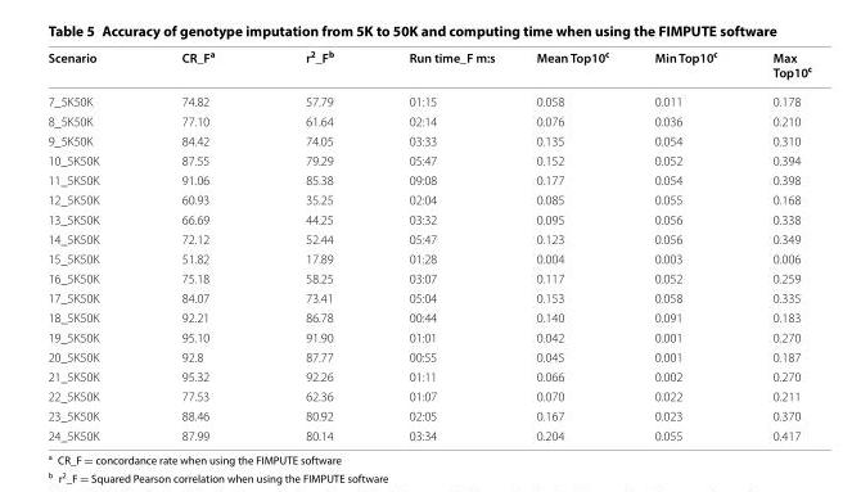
<table><thead><tr><td>Scenario</td><td>CR_F<sup>a</sup></td><td>r<sup>2</sup>_F<sup>b</sup></td><td>Run time_F m:s</td><td>Mean Top10<sup>c</sup></td><td>Min Top10<sup>c</sup></td><td>Max Top10<sup>c</sup></td></tr></thead><tbody><tr><td>7_5K50K</td><td>74.82</td><td>57.79</td><td>01:15</td><td>0.058</td><td>0.011</td><td>0.178</td></tr><tr><td>8_5K50K</td><td>77.10</td><td>61.64</td><td>02:14</td><td>0.076</td><td>0.036</td><td>0.210</td></tr><tr><td>9_5K50K</td><td>84.42</td><td>74.05</td><td>03:33</td><td>0.135</td><td>0.054</td><td>0.310</td></tr><tr><td>10_5K50K</td><td>87.55</td><td>79.29</td><td>05:47</td><td>0.152</td><td>0.052</td><td>0.394</td></tr><tr><td>11_5K50K</td><td>91.06</td><td>85.38</td><td>09:08</td><td>0.177</td><td>0.054</td><td>0.398</td></tr><tr><td>12_5K50K</td><td>60.93</td><td>35.25</td><td>02:04</td><td>0.085</td><td>0.055</td><td>0.168</td></tr><tr><td>13_5K50K</td><td>66.69</td><td>44.25</td><td>03:32</td><td>0.095</td><td>0.056</td><td>0.338</td></tr><tr><td>14_5K50K</td><td>72.12</td><td>52.44</td><td>05:47</td><td>0.123</td><td>0.056</td><td>0.349</td></tr><tr><td>15_5K50K</td><td>51.82</td><td>17.89</td><td>01:28</td><td>0.004</td><td>0.003</td><td>0.006</td></tr><tr><td>16_5K50K</td><td>75.18</td><td>58.25</td><td>03:07</td><td>0.117</td><td>0.052</td><td>0.259</td></tr><tr><td>17_5K50K</td><td>84.07</td><td>73.41</td><td>05:04</td><td>0.153</td><td>0.058</td><td>0.335</td></tr><tr><td>18_5K50K</td><td>92.21</td><td>86.78</td><td>00:44</td><td>0.140</td><td>0.091</td><td>0.183</td></tr><tr><td>19_5K50K</td><td>95.10</td><td>91.90</td><td>01:01</td><td>0.042</td><td>0.001</td><td>0.270</td></tr><tr><td>20_5K50K</td><td>92.8</td><td>87.77</td><td>00:55</td><td>0.045</td><td>0.001</td><td>0.187</td></tr><tr><td>21_5K50K</td><td>95.32</td><td>92.26</td><td>01:11</td><td>0.066</td><td>0.002</td><td>0.270</td></tr><tr><td>22_5K50K</td><td>77.53</td><td>62.36</td><td>01:07</td><td>0.070</td><td>0.022</td><td>0.211</td></tr><tr><td>23_5K50K</td><td>88.46</td><td>80.92</td><td>02:05</td><td>0.167</td><td>0.023</td><td>0.370</td></tr><tr><td>24_5K50K</td><td>87.99</td><td>80.14</td><td>03:34</td><td>0.204</td><td>0.055</td><td>0.417</td></tr></tbody></table>